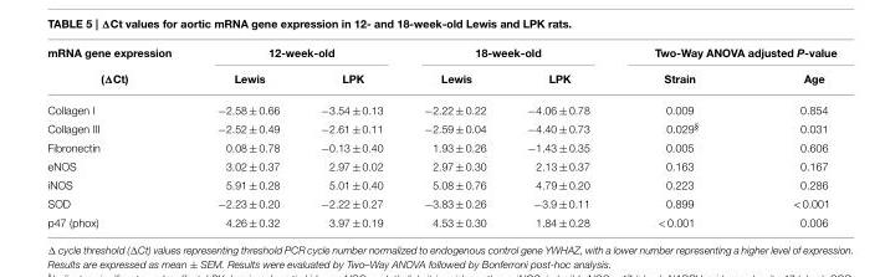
<table><thead><tr><td rowspan="2">mRNA gene expression (ΔCt)</td><td colspan="2">12-week-old</td><td colspan="2">18-week-old</td><td colspan="2">Two-Way ANOVA adjusted P-value</td></tr><tr><td>Lewis</td><td>LPK</td><td>Lewis</td><td>LPK</td><td>Strain</td><td>Age</td></tr></thead><tbody><tr><td>Collagen I</td><td>−2.58 ± 0.66</td><td>−3.54 ± 0.13</td><td>−2.22 ± 0.22</td><td>−4.06 ± 0.78</td><td>0.009</td><td>0.854</td></tr><tr><td>Collagen III</td><td>−2.52 ± 0.49</td><td>−2.61 ± 0.11</td><td>−2.59 ± 0.04</td><td>−4.40 ± 0.73</td><td>0.029<sup>§</sup></td><td>0.031</td></tr><tr><td>Fibronectin</td><td>0.08 ± 0.78</td><td>−0.13 ± 0.40</td><td>1.93 ± 0.26</td><td>−1.43 ± 0.35</td><td>0.005</td><td>0.606</td></tr><tr><td>eNOS</td><td>3.02 ± 0.37</td><td>2.97 ± 0.02</td><td>2.97 ± 0.30</td><td>2.13 ± 0.37</td><td>0.163</td><td>0.167</td></tr><tr><td>iNOS</td><td>5.91 ± 0.28</td><td>5.01 ± 0.40</td><td>5.08 ± 0.76</td><td>4.79 ± 0.20</td><td>0.223</td><td>0.286</td></tr><tr><td>SOD</td><td>−2.23 ± 0.20</td><td>−2.22 ± 0.27</td><td>−3.83 ± 0.26</td><td>−3.9 ± 0.11</td><td>0.899</td><td>&lt; 0.001</td></tr><tr><td>p47 (phox)</td><td>4.26 ± 0.32</td><td>3.97 ± 0.19</td><td>4.53 ± 0.30</td><td>1.84 ± 0.28</td><td>&lt; 0.001</td><td>0.006</td></tr></tbody></table>